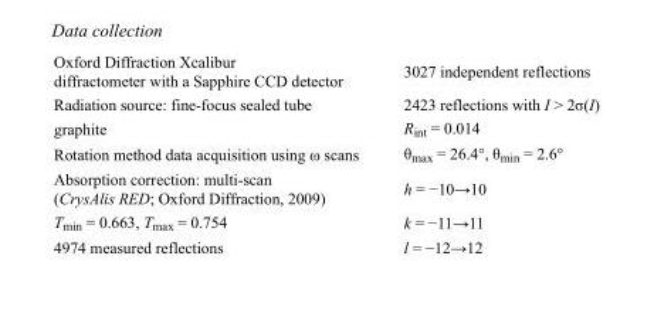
<table><tbody><tr><td>Oxford Diffraction Xcalibur diffractometer with a Sapphire CCD detector</td><td>3027 independent reflections</td></tr><tr><td>Radiation source: fine-focus sealed tube</td><td>2423 reflections with I &gt; 2σ(I)</td></tr><tr><td>graphite</td><td>R<sub>int</sub> = 0.014</td></tr><tr><td>Rotation method data acquisition using ω scans</td><td>θ<sub>max</sub> = 26.4°, θ<sub>min</sub> = 2.6°</td></tr><tr><td>Absorption correction: multi-scan (CrysAlis RED; Oxford Diffraction, 2009)</td><td>h = −10→10</td></tr><tr><td>T<sub>min</sub> = 0.663, T<sub>max</sub> = 0.754</td><td>k = −11→11</td></tr><tr><td>4974 measured reflections</td><td>l = −12→12</td></tr></tbody></table>